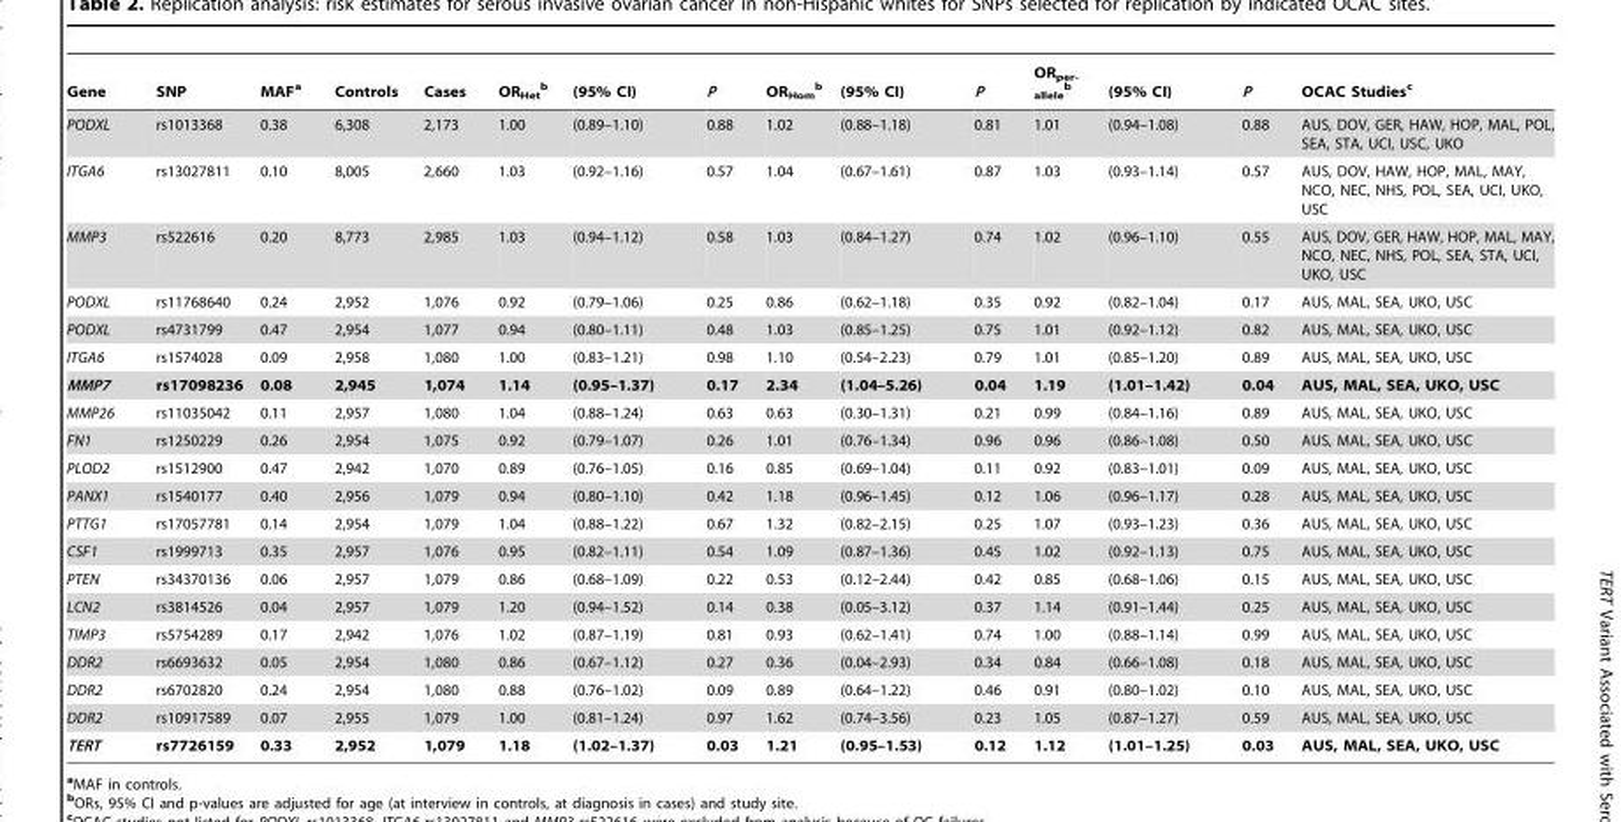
<table><thead><tr><td>Gene</td><td>SNP</td><td>MAF<sup>a</sup></td><td>Controls</td><td>Cases</td><td>OR<sub>Het</sub> b</td><td>(95% CI)</td><td>P</td><td>OR<sub>Hom</sub> b</td><td>(95% CI)</td><td>P</td><td>OR<sub>per- allele</sub> b</td><td>(95% CI)</td><td>P</td><td>OCAC Studies<sup>c</sup></td></tr></thead><tbody><tr><td>PODXL</td><td>rs1013368</td><td>0.38</td><td>6,308</td><td>2,173</td><td>1.00</td><td>(0.89–1.10)</td><td>0.88</td><td>1.02</td><td>(0.88–1.18)</td><td>0.81</td><td>1.01</td><td>(0.94–1.08)</td><td>0.88</td><td>AUS, DOV, GER, HAW, HOP, MAL, POL, SEA, STA, UCI, USC, UKO</td></tr><tr><td>ITGA6</td><td>rs13027811</td><td>0.10</td><td>8,005</td><td>2,660</td><td>1.03</td><td>(0.92–1.16)</td><td>0.57</td><td>1.04</td><td>(0.67–1.61)</td><td>0.87</td><td>1.03</td><td>(0.93–1.14)</td><td>0.57</td><td>AUS, DOV, HAW, HOP, MAL, MAY, NCO, NEC, NHS, POL, SEA, UCI, UKO, USC</td></tr><tr><td>MMP3</td><td>rs522616</td><td>0.20</td><td>8,773</td><td>2,985</td><td>1.03</td><td>(0.94–1.12)</td><td>0.58</td><td>1.03</td><td>(0.84–1.27)</td><td>0.74</td><td>1.02</td><td>(0.96–1.10)</td><td>0.55</td><td>AUS, DOV, GER, HAW, HOP, MAL, MAY, NCO, NEC, NHS, POL, SEA, STA, UCI, UKO, USC</td></tr><tr><td>PODXL</td><td>rs11768640</td><td>0.24</td><td>2,952</td><td>1,076</td><td>0.92</td><td>(0.79–1.06)</td><td>0.25</td><td>0.86</td><td>(0.62–1.18)</td><td>0.35</td><td>0.92</td><td>(0.82–1.04)</td><td>0.17</td><td>AUS, MAL, SEA, UKO, USC</td></tr><tr><td>PODXL</td><td>rs4731799</td><td>0.47</td><td>2,954</td><td>1,077</td><td>0.94</td><td>(0.80–1.11)</td><td>0.48</td><td>1.03</td><td>(0.85–1.25)</td><td>0.75</td><td>1.01</td><td>(0.92–1.12)</td><td>0.82</td><td>AUS, MAL, SEA, UKO, USC</td></tr><tr><td>ITGA6</td><td>rs1574028</td><td>0.09</td><td>2,958</td><td>1,080</td><td>1.00</td><td>(0.83–1.21)</td><td>0.98</td><td>1.10</td><td>(0.54–2.23)</td><td>0.79</td><td>1.01</td><td>(0.85–1.20)</td><td>0.89</td><td>AUS, MAL, SEA, UKO, USC</td></tr><tr><td>MMP7</td><td>rs17098236</td><td>0.08</td><td>2,945</td><td>1,074</td><td>1.14</td><td>(0.95–1.37)</td><td>0.17</td><td>2.34</td><td>(1.04–5.26)</td><td>0.04</td><td>1.19</td><td>(1.01–1.42)</td><td>0.04</td><td>AUS, MAL, SEA, UKO, USC</td></tr><tr><td>MMP26</td><td>rs11035042</td><td>0.11</td><td>2,957</td><td>1,080</td><td>1.04</td><td>(0.88–1.24)</td><td>0.63</td><td>0.63</td><td>(0.30–1.31)</td><td>0.21</td><td>0.99</td><td>(0.84–1.16)</td><td>0.89</td><td>AUS, MAL, SEA, UKO, USC</td></tr><tr><td>FN1</td><td>rs1250229</td><td>0.26</td><td>2,954</td><td>1,075</td><td>0.92</td><td>(0.79–1.07)</td><td>0.26</td><td>1.01</td><td>(0.76–1.34)</td><td>0.96</td><td>0.96</td><td>(0.86–1.08)</td><td>0.50</td><td>AUS, MAL, SEA, UKO, USC</td></tr><tr><td>PLOD2</td><td>rs1512900</td><td>0.47</td><td>2,942</td><td>1,070</td><td>0.89</td><td>(0.76–1.05)</td><td>0.16</td><td>0.85</td><td>(0.69–1.04)</td><td>0.11</td><td>0.92</td><td>(0.83–1.01)</td><td>0.09</td><td>AUS, MAL, SEA, UKO, USC</td></tr><tr><td>PANX1</td><td>rs1540177</td><td>0.40</td><td>2,956</td><td>1,079</td><td>0.94</td><td>(0.80–1.10)</td><td>0.42</td><td>1.18</td><td>(0.96–1.45)</td><td>0.12</td><td>1.06</td><td>(0.96–1.17)</td><td>0.28</td><td>AUS, MAL, SEA, UKO, USC</td></tr><tr><td>PTTG1</td><td>rs17057781</td><td>0.14</td><td>2,954</td><td>1,079</td><td>1.04</td><td>(0.88–1.22)</td><td>0.67</td><td>1.32</td><td>(0.82–2.15)</td><td>0.25</td><td>1.07</td><td>(0.93–1.23)</td><td>0.36</td><td>AUS, MAL, SEA, UKO, USC</td></tr><tr><td>CSF1</td><td>rs1999713</td><td>0.35</td><td>2,957</td><td>1,076</td><td>0.95</td><td>(0.82–1.11)</td><td>0.54</td><td>1.09</td><td>(0.87–1.36)</td><td>0.45</td><td>1.02</td><td>(0.92–1.13)</td><td>0.75</td><td>AUS, MAL, SEA, UKO, USC</td></tr><tr><td>PTEN</td><td>rs34370136</td><td>0.06</td><td>2,957</td><td>1,079</td><td>0.86</td><td>(0.68–1.09)</td><td>0.22</td><td>0.53</td><td>(0.12–2.44)</td><td>0.42</td><td>0.85</td><td>(0.68–1.06)</td><td>0.15</td><td>AUS, MAL, SEA, UKO, USC</td></tr><tr><td>LCN2</td><td>rs3814526</td><td>0.04</td><td>2,957</td><td>1,079</td><td>1.20</td><td>(0.94–1.52)</td><td>0.14</td><td>0.38</td><td>(0.05–3.12)</td><td>0.37</td><td>1.14</td><td>(0.91–1.44)</td><td>0.25</td><td>AUS, MAL, SEA, UKO, USC</td></tr><tr><td>TIMP3</td><td>rs5754289</td><td>0.17</td><td>2,942</td><td>1,076</td><td>1.02</td><td>(0.87–1.19)</td><td>0.81</td><td>0.93</td><td>(0.62–1.41)</td><td>0.74</td><td>1.00</td><td>(0.88–1.14)</td><td>0.99</td><td>AUS, MAL, SEA, UKO, USC</td></tr><tr><td>DDR2</td><td>rs6693632</td><td>0.05</td><td>2,954</td><td>1,080</td><td>0.86</td><td>(0.67–1.12)</td><td>0.27</td><td>0.36</td><td>(0.04–2.93)</td><td>0.34</td><td>0.84</td><td>(0.66–1.08)</td><td>0.18</td><td>AUS, MAL, SEA, UKO, USC</td></tr><tr><td>DDR2</td><td>rs6702820</td><td>0.24</td><td>2,954</td><td>1,080</td><td>0.88</td><td>(0.76–1.02)</td><td>0.09</td><td>0.89</td><td>(0.64–1.22)</td><td>0.46</td><td>0.91</td><td>(0.80–1.02)</td><td>0.10</td><td>AUS, MAL, SEA, UKO, USC</td></tr><tr><td>DDR2</td><td>rs10917589</td><td>0.07</td><td>2,955</td><td>1,079</td><td>1.00</td><td>(0.81–1.24)</td><td>0.97</td><td>1.62</td><td>(0.74–3.56)</td><td>0.23</td><td>1.05</td><td>(0.87–1.27)</td><td>0.59</td><td>AUS, MAL, SEA, UKO, USC</td></tr><tr><td>TERT</td><td>rs7726159</td><td>0.33</td><td>2,952</td><td>1,079</td><td>1.18</td><td>(1.02–1.37)</td><td>0.03</td><td>1.21</td><td>(0.95–1.53)</td><td>0.12</td><td>1.12</td><td>(1.01–1.25)</td><td>0.03</td><td>AUS, MAL, SEA, UKO, USC</td></tr></tbody></table>